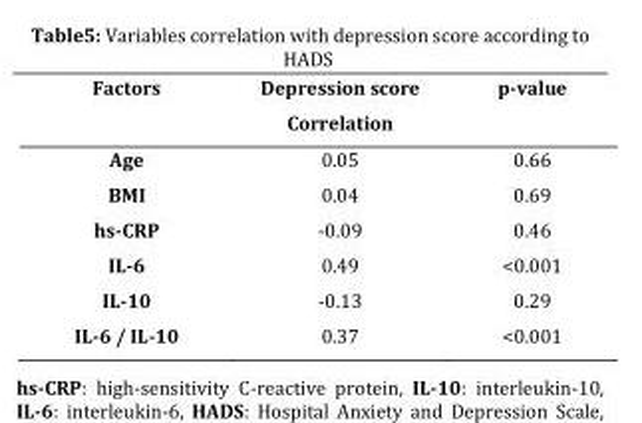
<table><thead><tr><td>Factors</td><td>Depression score Correlation</td><td>p-value</td></tr></thead><tbody><tr><td>Age</td><td>0.05</td><td>0.66</td></tr><tr><td>BMI</td><td>0.04</td><td>0.69</td></tr><tr><td>hs-CRP</td><td>-0.09</td><td>0.46</td></tr><tr><td>IL-6</td><td>0.49</td><td>&lt;0.001</td></tr><tr><td>IL-10</td><td>-0.13</td><td>0.29</td></tr><tr><td>IL-6 / IL-10</td><td>0.37</td><td>&lt;0.001</td></tr></tbody></table>